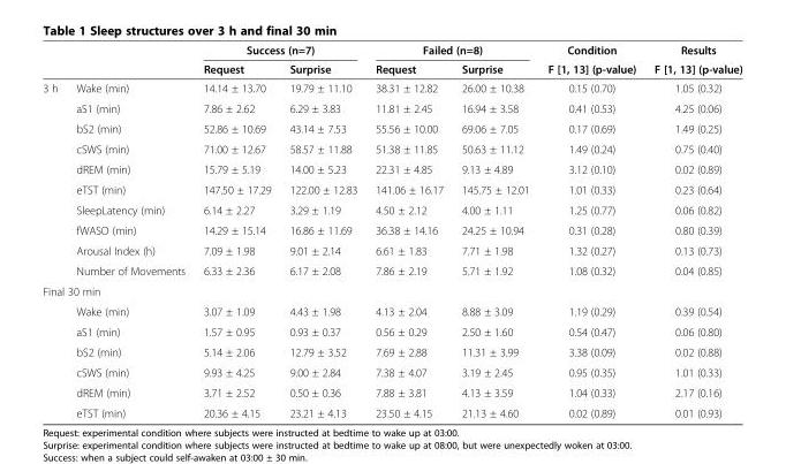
<table><thead><tr><td rowspan="2"></td><td rowspan="2"></td><td colspan="2">Success (n=7)</td><td colspan="2">Failed (n=8)</td><td rowspan="2">Condition F [1, 13] (p-value)</td><td rowspan="2">Results F [1, 13] (p-value)</td></tr><tr><td>Request</td><td>Surprise</td><td>Request</td><td>Surprise</td></tr></thead><tbody><tr><td rowspan="10">3 h</td><td>Wake (min)</td><td>14.14 ± 13.70</td><td>19.79 ± 11.10</td><td>38.31 ± 12.82</td><td>26.00 ± 10.38</td><td>0.15 (0.70)</td><td>1.05 (0.32)</td></tr><tr><td>aS1 (min)</td><td>7.86 ± 2.62</td><td>6.29 ± 3.83</td><td>11.81 ± 2.45</td><td>16.94 ± 3.58</td><td>0.41 (0.53)</td><td>4.25 (0.06)</td></tr><tr><td>bS2 (min)</td><td>52.86 ± 10.69</td><td>43.14 ± 7.53</td><td>55.56 ± 10.00</td><td>69.06 ± 7.05</td><td>0.17 (0.69)</td><td>1.49 (0.25)</td></tr><tr><td>cSWS (min)</td><td>71.00 ± 12.67</td><td>58.57 ± 11.88</td><td>51.38 ± 11.85</td><td>50.63 ± 11.12</td><td>1.49 (0.24)</td><td>0.75 (0.40)</td></tr><tr><td>dREM (min)</td><td>15.79 ± 5.19</td><td>14.00 ± 5.23</td><td>22.31 ± 4.85</td><td>9.13 ± 4.89</td><td>3.12 (0.10)</td><td>0.02 (0.89)</td></tr><tr><td>eTST (min)</td><td>147.50 ± 17.29</td><td>122.00 ± 12.83</td><td>141.06 ± 16.17</td><td>145.75 ± 12.01</td><td>1.01 (0.33)</td><td>0.23 (0.64)</td></tr><tr><td>SleepLatency (min)</td><td>6.14 ± 2.27</td><td>3.29 ± 1.19</td><td>4.50 ± 2.12</td><td>4.00 ± 1.11</td><td>1.25 (0.77)</td><td>0.06 (0.82)</td></tr><tr><td>fWASO (min)</td><td>14.29 ± 15.14</td><td>16.86 ± 11.69</td><td>36.38 ± 14.16</td><td>24.25 ± 10.94</td><td>0.31 (0.28)</td><td>0.80 (0.39)</td></tr><tr><td>Arousal Index (h)</td><td>7.09 ± 1.98</td><td>9.01 ± 2.14</td><td>6.61 ± 1.83</td><td>7.71 ± 1.98</td><td>1.32 (0.27)</td><td>0.13 (0.73)</td></tr><tr><td>Number of Movements</td><td>6.33 ± 2.36</td><td>6.17 ± 2.08</td><td>7.86 ± 2.19</td><td>5.71 ± 1.92</td><td>1.08 (0.32)</td><td>0.04 (0.85)</td></tr><tr><td colspan="8">Final 30 min</td></tr><tr><td></td><td>Wake (min)</td><td>3.07 ± 1.09</td><td>4.43 ± 1.98</td><td>4.13 ± 2.04</td><td>8.88 ± 3.09</td><td>1.19 (0.29)</td><td>0.39 (0.54)</td></tr><tr><td></td><td>aS1 (min)</td><td>1.57 ± 0.95</td><td>0.93 ± 0.37</td><td>0.56 ± 0.29</td><td>2.50 ± 1.60</td><td>0.54 (0.47)</td><td>0.06 (0.80)</td></tr><tr><td></td><td>bS2 (min)</td><td>5.14 ± 2.06</td><td>12.79 ± 3.52</td><td>7.69 ± 2.88</td><td>11.31 ± 3.99</td><td>3.38 (0.09)</td><td>0.02 (0.88)</td></tr><tr><td></td><td>cSWS (min)</td><td>9.93 ± 4.25</td><td>9.00 ± 2.84</td><td>7.38 ± 4.07</td><td>3.19 ± 2.45</td><td>0.95 (0.35)</td><td>1.01 (0.33)</td></tr><tr><td></td><td>dREM (min)</td><td>3.71 ± 2.52</td><td>0.50 ± 0.36</td><td>7.88 ± 3.81</td><td>4.13 ± 3.59</td><td>1.04 (0.33)</td><td>2.17 (0.16)</td></tr><tr><td></td><td>eTST (min)</td><td>20.36 ± 4.15</td><td>23.21 ± 4.13</td><td>23.50 ± 4.15</td><td>21.13 ± 4.60</td><td>0.02 (0.89)</td><td>0.01 (0.93)</td></tr></tbody></table>